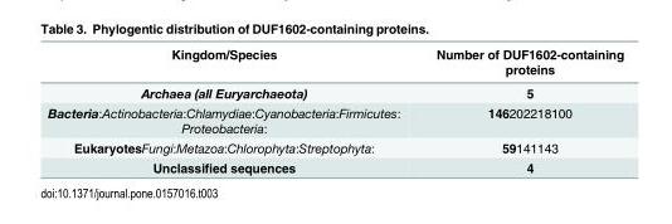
<table><thead><tr><td>Kingdom/Species</td><td>Number of DUF1602-containing proteins</td></tr></thead><tbody><tr><td>Archaea (all Euryarchaeota)</td><td>5</td></tr><tr><td>Bacteria:Actinobacteria:Chlamydiae:Cyanobacteria:Firmicutes: Proteobacteria:</td><td>146202218100</td></tr><tr><td>EukaryotesFungi:Metazoa:Chlorophyta:Streptophyta:</td><td>59141143</td></tr><tr><td>Unclassified sequences</td><td>4</td></tr></tbody></table>